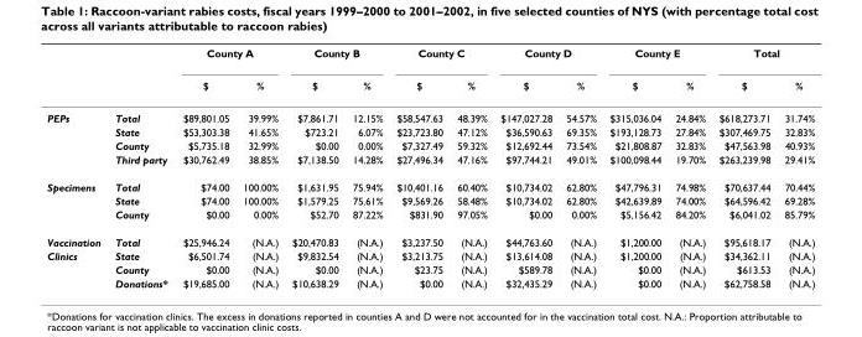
<table><thead><tr><td rowspan="2"></td><td rowspan="2"></td><td colspan="2">County A</td><td colspan="2">County B</td><td colspan="2">County C</td><td colspan="2">County D</td><td colspan="2">County E</td><td colspan="2">Total</td></tr><tr><td>$</td><td>%</td><td>$</td><td>%</td><td>$</td><td>%</td><td>$</td><td>%</td><td>$</td><td>%</td><td>$</td><td>%</td></tr></thead><tbody><tr><td rowspan="4">PEPs</td><td>Total</td><td>$89,801.05</td><td>39.99%</td><td>$7,861.71</td><td>12.15%</td><td>$58,547.63</td><td>48.39%</td><td>$147,027.28</td><td>54.57%</td><td>$315,036.04</td><td>24.84%</td><td>$618,273.71</td><td>31.74%</td></tr><tr><td>State</td><td>$53,303.38</td><td>41.65%</td><td>$723.21</td><td>6.07%</td><td>$23,723.80</td><td>47.12%</td><td>$36,590.63</td><td>69.35%</td><td>$193,128.73</td><td>27.84%</td><td>$307,469.75</td><td>32.83%</td></tr><tr><td>County</td><td>$5,735.18</td><td>32.99%</td><td>$0.00</td><td>0.00%</td><td>$7,327.49</td><td>59.32%</td><td>$12,692.44</td><td>73.54%</td><td>$21,808.87</td><td>32.83%</td><td>$47,563.98</td><td>40.93%</td></tr><tr><td>Third party</td><td>$30,762.49</td><td>38.85%</td><td>$7,138.50</td><td>14.28%</td><td>$27,496.34</td><td>47.16%</td><td>$97,744.21</td><td>49.01%</td><td>$100,098.44</td><td>19.70%</td><td>$263,239.98</td><td>29.41%</td></tr><tr><td rowspan="3">Specimens</td><td>Total</td><td>$74.00</td><td>100.00%</td><td>$1,631.95</td><td>75.94%</td><td>$10,401.16</td><td>60.40%</td><td>$10,734.02</td><td>62.80%</td><td>$47,796.31</td><td>74.98%</td><td>$70,637.44</td><td>70.44%</td></tr><tr><td>State</td><td>$74.00</td><td>100.00%</td><td>$1,579.25</td><td>75.61%</td><td>$9,569.26</td><td>58.48%</td><td>$10,734.02</td><td>62.80%</td><td>$42,639.89</td><td>74.00%</td><td>$64,596.42</td><td>69.28%</td></tr><tr><td>County</td><td>$0.00</td><td>0.00%</td><td>$52.70</td><td>87.22%</td><td>$831.90</td><td>97.05%</td><td>$0.00</td><td>0.00%</td><td>$5,156.42</td><td>84.20%</td><td>$6,041.02</td><td>85.79%</td></tr><tr><td>Vaccination</td><td>Total</td><td>$25,946.24</td><td>(N.A.)</td><td>$20,470.83</td><td>(N.A.)</td><td>$3,237.50</td><td>(N.A.)</td><td>$44,763.60</td><td>(N.A.)</td><td>$1,200.00</td><td>(N.A.)</td><td>$95,618.17</td><td>(N.A.)</td></tr><tr><td rowspan="3">Clinics</td><td>State</td><td>$6,501.74</td><td>(N.A.)</td><td>$9,832.54</td><td>(N.A.)</td><td>$3,213.75</td><td>(N.A.)</td><td>$13,614.08</td><td>(N.A.)</td><td>$1,200.00</td><td>(N.A.)</td><td>$34,362.11</td><td>(N.A.)</td></tr><tr><td>County</td><td>$0.00</td><td>(N.A.)</td><td>$0.00</td><td>(N.A.)</td><td>$23.75</td><td>(N.A.)</td><td>$589.78</td><td>(N.A.)</td><td>$0.00</td><td>(N.A.)</td><td>$613.53</td><td>(N.A.)</td></tr><tr><td>Donations*</td><td>$19,685.00</td><td>(N.A.)</td><td>$10,638.29</td><td>(N.A.)</td><td>$0.00</td><td>(N.A.)</td><td>$32,435.29</td><td>(N.A.)</td><td>$0.00</td><td>(N.A.)</td><td>$62,758.58</td><td>(N.A.)</td></tr></tbody></table>